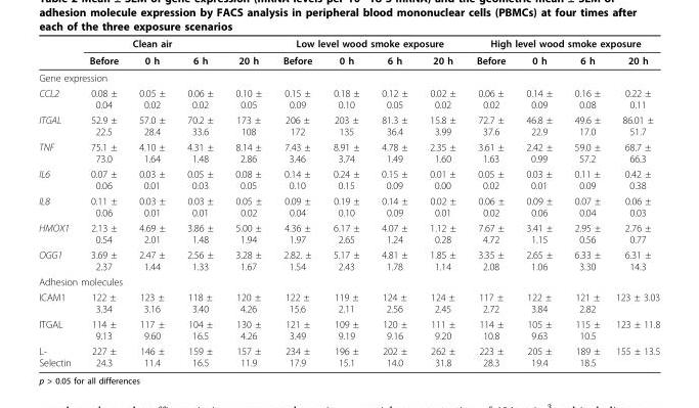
<table><thead><tr><td rowspan="2"></td><td rowspan="2">Before</td><td rowspan="2">Clean air 0 h</td><td rowspan="2">6 h</td><td rowspan="2">20 h</td><td colspan="4">Low level wood smoke exposure</td><td colspan="4">High level wood smoke exposure</td></tr><tr><td>Before</td><td>0 h</td><td>6 h</td><td>20 h</td><td>Before</td><td>0 h</td><td>6 h</td><td>20 h</td></tr></thead><tbody><tr><td colspan="13">Gene expression</td></tr><tr><td>CCL2</td><td>0.08 ± 0.04</td><td>0.05 ± 0.02</td><td>0.06 ± 0.02</td><td>0.10 ± 0.05</td><td>0.15 ± 0.09</td><td>0.18 ± 0.10</td><td>0.12 ± 0.05</td><td>0.02 ± 0.02</td><td>0.06 ± 0.02</td><td>0.14 ± 0.09</td><td>0.16 ± 0.08</td><td>0.22 ± 0.11</td></tr><tr><td>ITGAL</td><td>52.9 ± 22.5</td><td>57.0 ± 28.4</td><td>70.2 ± 33.6</td><td>173 ± 108</td><td>206 ± 172</td><td>203 ± 135</td><td>81.3 ± 36.4</td><td>15.8 ± 3.99</td><td>72.7 ± 37.6</td><td>46.8 ± 22.9</td><td>49.6 ± 17.0</td><td>86.01 ± 51.7</td></tr><tr><td>TNF</td><td>75.1 ± 73.0</td><td>4.10 ± 1.64</td><td>4.31 ± 1.48</td><td>8.14 ± 2.86</td><td>7.43 ± 3.46</td><td>8.91 ± 3.74</td><td>4.78 ± 1.49</td><td>2.35 ± 1.60</td><td>3.61 ± 1.63</td><td>2.42 ± 0.99</td><td>59.0 ± 57.2</td><td>68.7 ± 66.3</td></tr><tr><td>IL6</td><td>0.07 ± 0.06</td><td>0.03 ± 0.01</td><td>0.05 ± 0.03</td><td>0.08 ± 0.05</td><td>0.14 ± 0.10</td><td>0.24 ± 0.15</td><td>0.15 ± 0.09</td><td>0.01 ± 0.00</td><td>0.05 ± 0.02</td><td>0.03 ± 0.01</td><td>0.11 ± 0.09</td><td>0.42 ± 0.38</td></tr><tr><td>IL8</td><td>0.11 ± 0.06</td><td>0.03 ± 0.01</td><td>0.03 ± 0.01</td><td>0.05 ± 0.02</td><td>0.09 ± 0.04</td><td>0.19 ± 0.10</td><td>0.14 ± 0.09</td><td>0.02 ± 0.01</td><td>0.06 ± 0.02</td><td>0.09 ± 0.06</td><td>0.07 ± 0.04</td><td>0.06 ± 0.03</td></tr><tr><td>HMOX1</td><td>2.13 ± 0.54</td><td>4.69 ± 2.01</td><td>3.86 ± 1.48</td><td>5.00 ± 1.94</td><td>4.36 ± 1.97</td><td>6.17 ± 2.65</td><td>4.07 ± 1.24</td><td>1.12 ± 0.28</td><td>7.67 ± 4.72</td><td>3.41 ± 1.15</td><td>2.95 ± 0.56</td><td>2.76 ± 0.77</td></tr><tr><td>OGG1</td><td>3.69 ± 2.37</td><td>2.47 ± 1.44</td><td>2.56 ± 1.33</td><td>3.28 ± 1.67</td><td>2.82. ± 1.54</td><td>5.17 ± 2.43</td><td>4.81 ± 1.78</td><td>1.85 ± 1.14</td><td>3.35 ± 2.08</td><td>2.65 ± 1.06</td><td>6.33 ± 3.30</td><td>6.31 ± 14.3</td></tr><tr><td colspan="13">Adhesion molecules</td></tr><tr><td>ICAM1</td><td>122 ± 3.34</td><td>123 ± 3.16</td><td>118 ± 3.40</td><td>120 ± 4.26</td><td>122 ± 15.6</td><td>119 ± 2.11</td><td>124 ± 2.56</td><td>124 ± 2.45</td><td>117 ± 2.72</td><td>122 ± 3.84</td><td>121 ± 2.82</td><td>123 ± 3.03</td></tr><tr><td>ITGAL</td><td>114 ± 9.13</td><td>117 ± 9.60</td><td>104 ± 16.5</td><td>130 ± 4.26</td><td>121 ± 3.49</td><td>109 ± 9.19</td><td>120 ± 9.16</td><td>111 ± 9.20</td><td>114 ± 10.8</td><td>105 ± 9.63</td><td>115 ± 10.5</td><td>123 ± 11.8</td></tr><tr><td>L- Selectin</td><td>227 ± 24.3</td><td>146 ± 11.4</td><td>159 ± 16.5</td><td>157 ± 11.9</td><td>234 ± 17.9</td><td>196 ± 15.1</td><td>202 ± 14.0</td><td>262 ± 31.8</td><td>223 ± 28.3</td><td>205 ± 19.4</td><td>189 ± 18.5</td><td>155 ± 13.5</td></tr></tbody></table>